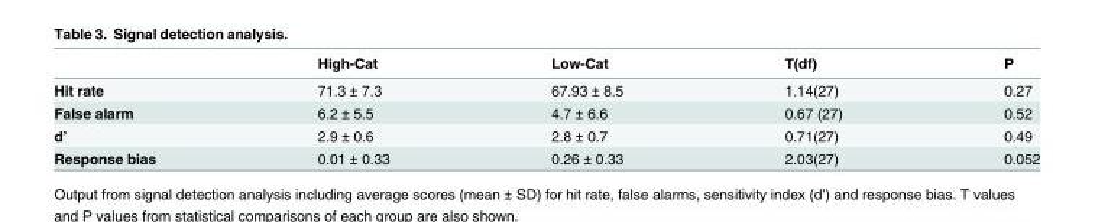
<table><thead><tr><td></td><td>High-Cat</td><td>Low-Cat</td><td>T(df)</td><td>P</td></tr></thead><tbody><tr><td>Hit rate</td><td>71.3 ± 7.3</td><td>67.93 ± 8.5</td><td>1.14(27)</td><td>0.27</td></tr><tr><td>False alarm</td><td>6.2 ± 5.5</td><td>4.7 ± 6.6</td><td>0.67 (27)</td><td>0.52</td></tr><tr><td>d’</td><td>2.9 ± 0.6</td><td>2.8 ± 0.7</td><td>0.71(27)</td><td>0.49</td></tr><tr><td>Response bias</td><td>0.01 ± 0.33</td><td>0.26 ± 0.33</td><td>2.03(27)</td><td>0.052</td></tr></tbody></table>